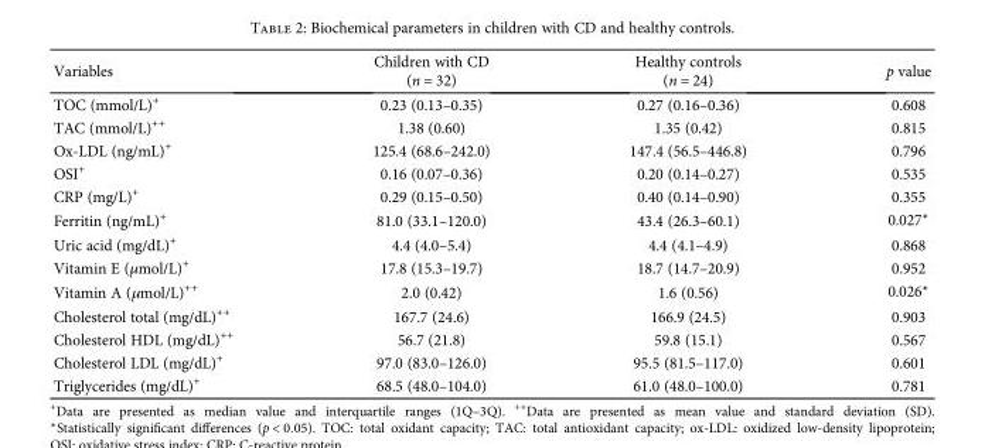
<table><thead><tr><td>Variables</td><td>Children with CD (n = 32)</td><td>Healthy controls (n = 24)</td><td>p value</td></tr></thead><tbody><tr><td>TOC (mmol/L)<sup>+</sup></td><td>0.23 (0.13–0.35)</td><td>0.27 (0.16–0.36)</td><td>0.608</td></tr><tr><td>TAC (mmol/L)<sup>++</sup></td><td>1.38 (0.60)</td><td>1.35 (0.42)</td><td>0.815</td></tr><tr><td>Ox-LDL (ng/mL)<sup>+</sup></td><td>125.4 (68.6–242.0)</td><td>147.4 (56.5–446.8)</td><td>0.796</td></tr><tr><td>OSI<sup>+</sup></td><td>0.16 (0.07–0.36)</td><td>0.20 (0.14–0.27)</td><td>0.535</td></tr><tr><td>CRP (mg/L)<sup>+</sup></td><td>0.29 (0.15–0.50)</td><td>0.40 (0.14–0.90)</td><td>0.355</td></tr><tr><td>Ferritin (ng/mL)<sup>+</sup></td><td>81.0 (33.1–120.0)</td><td>43.4 (26.3–60.1)</td><td>0.027∗</td></tr><tr><td>Uric acid (mg/dL)<sup>+</sup></td><td>4.4 (4.0–5.4)</td><td>4.4 (4.1–4.9)</td><td>0.868</td></tr><tr><td>Vitamin E (μmol/L)<sup>+</sup></td><td>17.8 (15.3–19.7)</td><td>18.7 (14.7–20.9)</td><td>0.952</td></tr><tr><td>Vitamin A (μmol/L)<sup>++</sup></td><td>2.0 (0.42)</td><td>1.6 (0.56)</td><td>0.026∗</td></tr><tr><td>Cholesterol total (mg/dL)<sup>++</sup></td><td>167.7 (24.6)</td><td>166.9 (24.5)</td><td>0.903</td></tr><tr><td>Cholesterol HDL (mg/dL)<sup>++</sup></td><td>56.7 (21.8)</td><td>59.8 (15.1)</td><td>0.567</td></tr><tr><td>Cholesterol LDL (mg/dL)<sup>+</sup></td><td>97.0 (83.0–126.0)</td><td>95.5 (81.5–117.0)</td><td>0.601</td></tr><tr><td>Triglycerides (mg/dL)<sup>+</sup></td><td>68.5 (48.0–104.0)</td><td>61.0 (48.0–100.0)</td><td>0.781</td></tr></tbody></table>